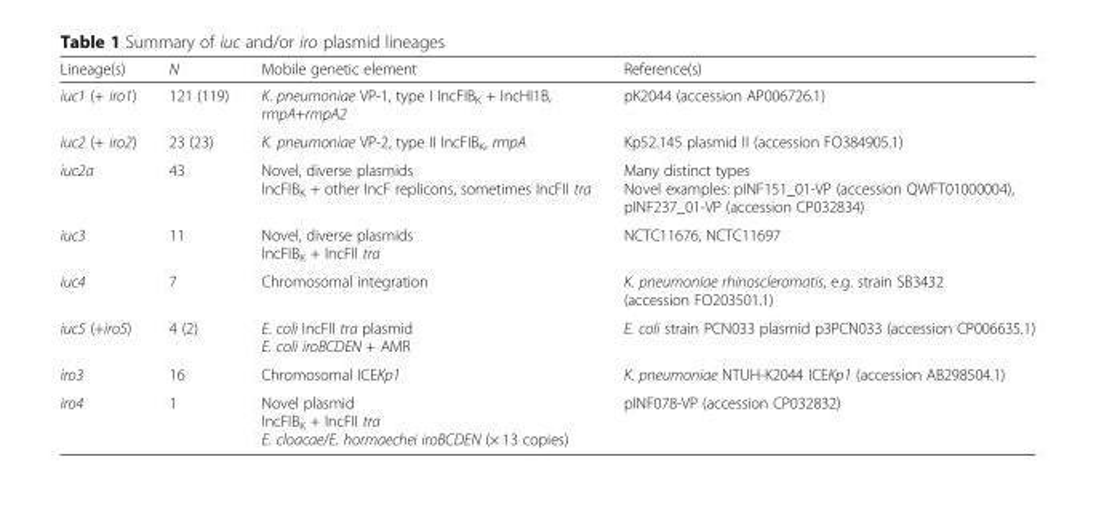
<table><thead><tr><td>Lineage(s)</td><td>N</td><td>Mobile genetic element</td><td>Reference(s)</td></tr></thead><tbody><tr><td>iuc1 (+ iro1)</td><td>121 (119)</td><td>K. pneumoniae VP-1, type I IncFIB<sub>K</sub> + IncHI1B, rmpA+rmpA2</td><td>pK2044 (accession AP006726.1)</td></tr><tr><td>iuc2 (+ iro2)</td><td>23 (23)</td><td>K. pneumoniae VP-2, type II IncFIB<sub>K</sub>, rmpA</td><td>Kp52.145 plasmid II (accession FO384905.1)</td></tr><tr><td>iuc2a</td><td>43</td><td>Novel, diverse plasmids IncFIB<sub>K</sub> + other IncF replicons, sometimes IncFII tra</td><td>Many distinct types Novel examples: pINF151_01-VP (accession QWFT01000004), pINF237_01-VP (accession CP032834)</td></tr><tr><td>iuc3</td><td>11</td><td>Novel, diverse plasmids IncFIB<sub>K</sub> + IncFII tra</td><td>NCTC11676, NCTC11697</td></tr><tr><td>iuc4</td><td>7</td><td>Chromosomal integration</td><td>K. pneumoniae rhinoscleromatis, e.g. strain SB3432 (accession FO203501.1)</td></tr><tr><td>iuc5 (+iro5)</td><td>4 (2)</td><td>E. coli IncFII tra plasmid E. coli iroBCDEN + AMR</td><td>E. coli strain PCN033 plasmid p3PCN033 (accession CP006635.1)</td></tr><tr><td>iro3</td><td>16</td><td>Chromosomal ICEKp1</td><td>K. pneumoniae NTUH-K2044 ICEKp1 (accession AB298504.1)</td></tr><tr><td>iro4</td><td>1</td><td>Novel plasmid IncFIB<sub>K</sub> + IncFII tra E. cloacae/E. hormaechei iroBCDEN (× 13 copies)</td><td>pINF078-VP (accession CP032832)</td></tr></tbody></table>